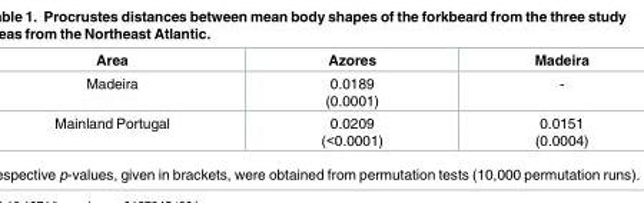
<table><thead><tr><td>Area</td><td>Azores</td><td>Madeira</td></tr></thead><tbody><tr><td>Madeira</td><td>0.0189 (0.0001)</td><td>-</td></tr><tr><td>Mainland Portugal</td><td>0.0209 (&lt;0.0001)</td><td>0.0151 (0.0004)</td></tr></tbody></table>